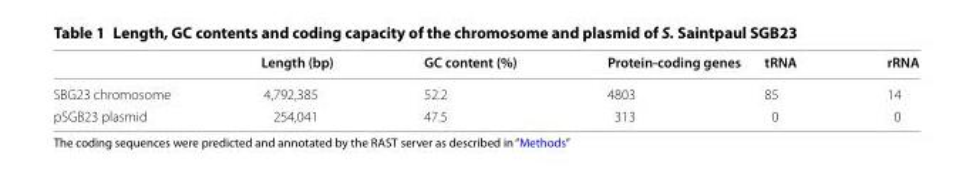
<table><thead><tr><td></td><td>Length (bp)</td><td>GC content (%)</td><td>Protein-coding genes</td><td>tRNA</td><td>rRNA</td></tr></thead><tbody><tr><td>SBG23 chromosome</td><td>4,792,385</td><td>52.2</td><td>4803</td><td>85</td><td>14</td></tr><tr><td>pSGB23 plasmid</td><td>254,041</td><td>47.5</td><td>313</td><td>0</td><td>0</td></tr></tbody></table>